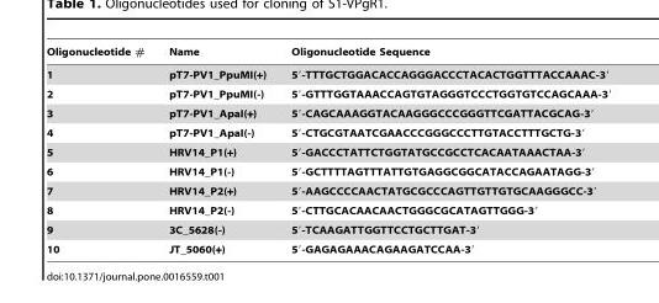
<table><thead><tr><td>Oligonucleotide #</td><td>Name</td><td>Oligonucleotide Sequence</td></tr></thead><tbody><tr><td>1</td><td>pT7-PV1_PpuMI(+)</td><td>5′-TTTGCTGGACACCAGGGACCCTACACTGGTTTACCAAAC-3′</td></tr><tr><td>2</td><td>pT7-PV1_PpuMI(-)</td><td>5′-GTTTGGTAAACCAGTGTAGGGTCCCTGGTGTCCAGCAAA-3′</td></tr><tr><td>3</td><td>pT7-PV1_ApaI(+)</td><td>5′-CAGCAAAGGTACAAGGGCCCGGGTTCGATTACGCAG-3′</td></tr><tr><td>4</td><td>pT7-PV1_ApaI(-)</td><td>5′-CTGCGTAATCGAACCCGGGCCCTTGTACCTTTGCTG-3′</td></tr><tr><td>5</td><td>HRV14_P1(+)</td><td>5′-GACCCTATTCTGGTATGCCGCCTCACAATAAACTAA-3′</td></tr><tr><td>6</td><td>HRV14_P1(-)</td><td>5′-GCTTTTAGTTTATTGTGAGGCGGCATACCAGAATAGG-3′</td></tr><tr><td>7</td><td>HRV14_P2(+)</td><td>5′-AAGCCCCAACTATGCGCCCAGTTGTTGTGCAAGGGCC-3′</td></tr><tr><td>8</td><td>HRV14_P2(-)</td><td>5′-CTTGCACAACAACTGGGCGCATAGTTGGG-3′</td></tr><tr><td>9</td><td>3C_5628(-)</td><td>5′-TCAAGATTGGTTCCTGCTTGAT-3′</td></tr><tr><td>10</td><td>JT_5060(+)</td><td>5′-GAGAGAAACAGAAGATCCAA-3′</td></tr></tbody></table>